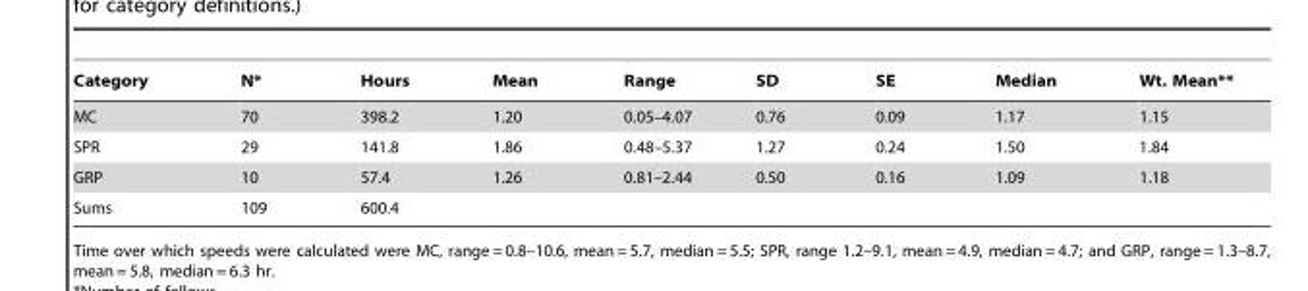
<table><thead><tr><td>Category</td><td>N*</td><td>Hours</td><td>Mean</td><td>Range</td><td>SD</td><td>SE</td><td>Median</td><td>Wt. Mean**</td></tr></thead><tbody><tr><td>MC</td><td>70</td><td>398.2</td><td>1.20</td><td>0.05–4.07</td><td>0.76</td><td>0.09</td><td>1.17</td><td>1.15</td></tr><tr><td>SPR</td><td>29</td><td>141.8</td><td>1.86</td><td>0.48–5.37</td><td>1.27</td><td>0.24</td><td>1.50</td><td>1.84</td></tr><tr><td>GRP</td><td>10</td><td>57.4</td><td>1.26</td><td>0.81–2.44</td><td>0.50</td><td>0.16</td><td>1.09</td><td>1.18</td></tr><tr><td>Sums</td><td>109</td><td>600.4</td><td></td><td></td><td></td><td></td><td></td><td></td></tr></tbody></table>